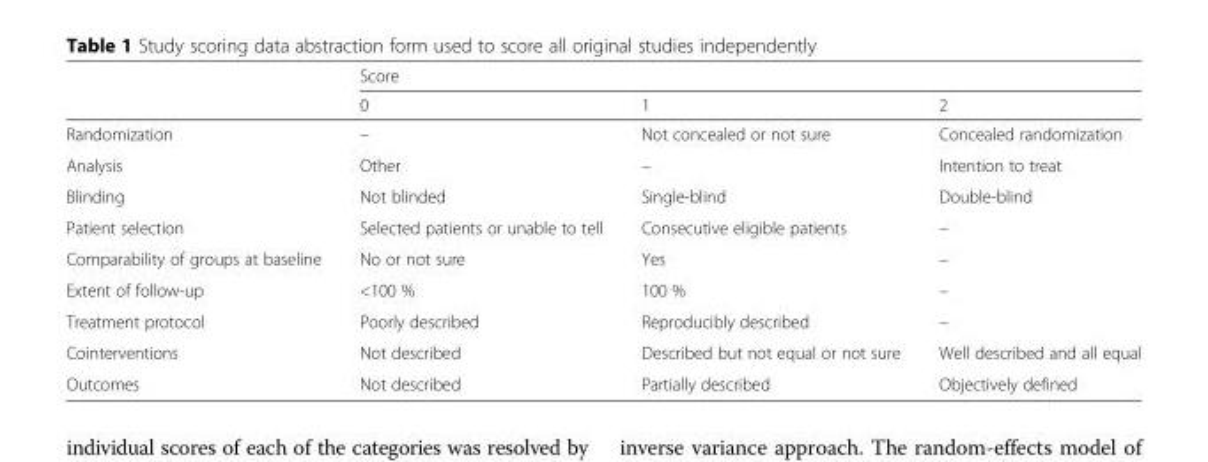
<table><thead><tr><td rowspan="2"></td><td colspan="3">Score</td></tr><tr><td>0</td><td>1</td><td>2</td></tr></thead><tbody><tr><td>Randomization</td><td>–</td><td>Not concealed or not sure</td><td>Concealed randomization</td></tr><tr><td>Analysis</td><td>Other</td><td>–</td><td>Intention to treat</td></tr><tr><td>Blinding</td><td>Not blinded</td><td>Single-blind</td><td>Double-blind</td></tr><tr><td>Patient selection</td><td>Selected patients or unable to tell</td><td>Consecutive eligible patients</td><td>–</td></tr><tr><td>Comparability of groups at baseline</td><td>No or not sure</td><td>Yes</td><td>–</td></tr><tr><td>Extent of follow-up</td><td>&lt;100 %</td><td>100 %</td><td>–</td></tr><tr><td>Treatment protocol</td><td>Poorly described</td><td>Reproducibly described</td><td>–</td></tr><tr><td>Cointerventions</td><td>Not described</td><td>Described but not equal or not sure</td><td>Well described and all equal</td></tr><tr><td>Outcomes</td><td>Not described</td><td>Partially described</td><td>Objectively defined</td></tr></tbody></table>